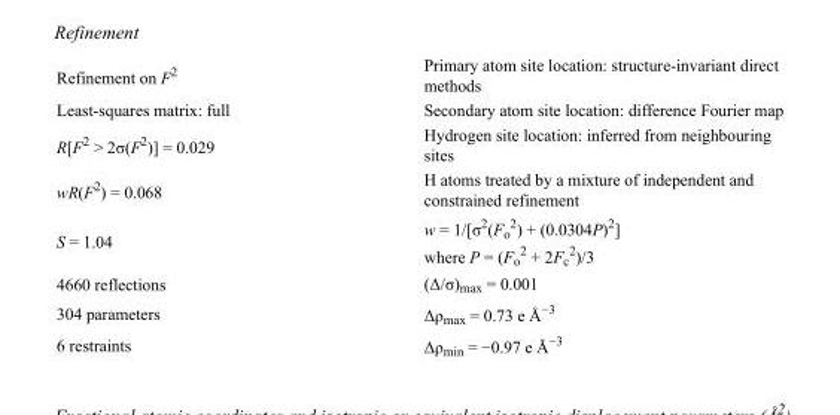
<table><tbody><tr><td>Refinement on F<sup>2</sup></td><td>Primary atom site location: structure-invariant direct methods</td></tr><tr><td>Least-squares matrix: full</td><td>Secondary atom site location: difference Fourier map</td></tr><tr><td>R[F<sup>2</sup> &gt; 2σ(F<sup>2</sup>)] = 0.029</td><td>Hydrogen site location: inferred from neighbouring sites</td></tr><tr><td>wR(F<sup>2</sup>) = 0.068</td><td>H atoms treated by a mixture of independent and constrained refinement</td></tr><tr><td>S = 1.04</td><td>w = 1/[σ<sup>2</sup>(F<sub>o</sub> <sup>2</sup>) + (0.0304P)<sup>2</sup>] where P = (F<sub>o</sub> <sup>2</sup> + 2F<sub>c</sub> <sup>2</sup>)/3</td></tr><tr><td>4660 reflections</td><td>(Δ/σ)<sub>max</sub> = 0.001</td></tr><tr><td>304 parameters</td><td>Δρ<sub>max</sub> = 0.73 e Å<sup>−3</sup></td></tr><tr><td>6 restraints</td><td>Δρ<sub>min</sub> = −0.97 e Å<sup>−3</sup></td></tr></tbody></table>